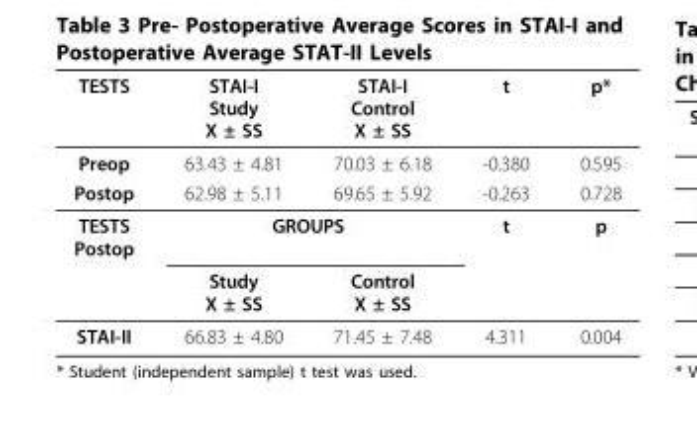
<table><thead><tr><td>TESTS</td><td>STAI-I Study X ± SS</td><td>STAI-I Control X ± SS</td><td>t</td><td>p*</td></tr></thead><tbody><tr><td>Preop</td><td>63.43 ± 4.81</td><td>70.03 ± 6.18</td><td>-0.380</td><td>0.595</td></tr><tr><td>Postop</td><td>62.98 ± 5.11</td><td>69.65 ± 5.92</td><td>-0.263</td><td>0.728</td></tr><tr><td rowspan="2">TESTS Postop</td><td colspan="2">GROUPS</td><td>t</td><td>p</td></tr><tr><td>Study X ± SS</td><td>Control X ± SS</td><td></td><td></td></tr><tr><td>STAI-II</td><td>66.83 ± 4.80</td><td>71.45 ± 7.48</td><td>4.311</td><td>0.004</td></tr></tbody></table>